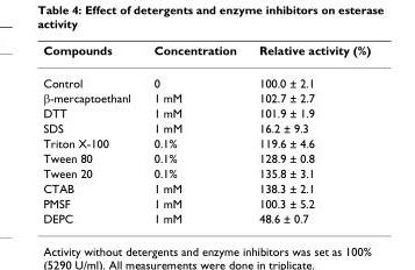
<table><thead><tr><td>Compounds</td><td>Concentration</td><td>Relative activity (%)</td></tr></thead><tbody><tr><td>Control</td><td>0</td><td>100.0 ± 2.1</td></tr><tr><td>β-mercaptoethanl</td><td>1 mM</td><td>102.7 ± 2.7</td></tr><tr><td>DTT</td><td>1 mM</td><td>101.9 ± 1.9</td></tr><tr><td>SDS</td><td>1 mM</td><td>16.2 ± 9.3</td></tr><tr><td>Triton X-100</td><td>0.1%</td><td>119.6 ± 4.6</td></tr><tr><td>Tween 80</td><td>0.1%</td><td>128.9 ± 0.8</td></tr><tr><td>Tween 20</td><td>0.1%</td><td>135.8 ± 3.1</td></tr><tr><td>CTAB</td><td>1 mM</td><td>138.3 ± 2.1</td></tr><tr><td>PMSF</td><td>1 mM</td><td>100.3 ± 5.2</td></tr><tr><td>DEPC</td><td>1 mM</td><td>48.6 ± 0.7</td></tr></tbody></table>